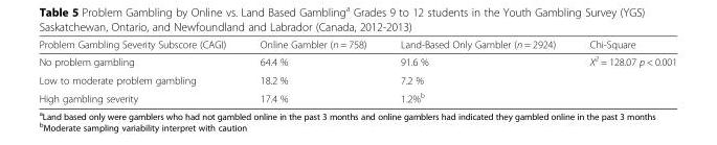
<table><thead><tr><td>Problem Gambling Severity Subscore (CAGI)</td><td>Online Gambler (n = 758)</td><td>Land-Based Only Gambler (n = 2924)</td><td>Chi-Square</td></tr></thead><tbody><tr><td>No problem gambling</td><td>64.4 %</td><td>91.6 %</td><td rowspan="3">X<sup>2</sup> = 128.07 p &lt; 0.001</td></tr><tr><td>Low to moderate problem gambling</td><td>18.2 %</td><td>7.2 %</td></tr><tr><td>High gambling severity</td><td>17.4 %</td><td>1.2%<sup>b</sup></td></tr></tbody></table>